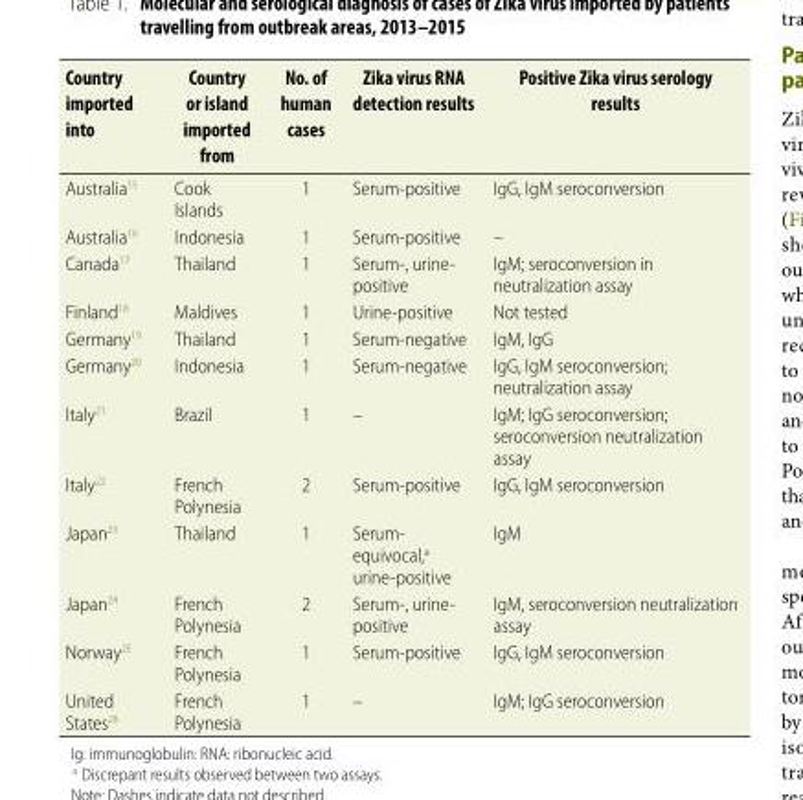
<table><thead><tr><td>Country imported into</td><td>Country or island imported from</td><td>No. of human cases</td><td>Zika virus RNA detection results</td><td>Positive Zika virus serology results</td></tr></thead><tbody><tr><td>Australia<sup>15</sup></td><td>Cook Islands</td><td>1</td><td>Serum-positive</td><td>IgG, IgM seroconversion</td></tr><tr><td>Australia<sup>16</sup></td><td>Indonesia</td><td>1</td><td>Serum-positive</td><td>–</td></tr><tr><td>Canada<sup>17</sup></td><td>Thailand</td><td>1</td><td>Serum-, urine- positive</td><td>IgM; seroconversion in neutralization assay</td></tr><tr><td>Finland<sup>18</sup></td><td>Maldives</td><td>1</td><td>Urine-positive</td><td>Not tested</td></tr><tr><td>Germany<sup>19</sup></td><td>Thailand</td><td>1</td><td>Serum-negative</td><td>IgM, IgG</td></tr><tr><td>Germany<sup>20</sup></td><td>Indonesia</td><td>1</td><td>Serum-negative</td><td>IgG, IgM seroconversion; neutralization assay</td></tr><tr><td>Italy<sup>21</sup></td><td>Brazil</td><td>1</td><td>–</td><td>IgM; IgG seroconversion; seroconversion neutralization assay</td></tr><tr><td>Italy<sup>22</sup></td><td>French Polynesia</td><td>2</td><td>Serum-positive</td><td>IgG, IgM seroconversion</td></tr><tr><td>Japan<sup>23</sup></td><td>Thailand</td><td>1</td><td>Serum- equivocal,<sup>a</sup> urine-positive</td><td>IgM</td></tr><tr><td>Japan<sup>24</sup></td><td>French Polynesia</td><td>2</td><td>Serum-, urine- positive</td><td>IgM, seroconversion neutralization assay</td></tr><tr><td>Norway<sup>25</sup></td><td>French Polynesia</td><td>1</td><td>Serum-positive</td><td>IgG, IgM seroconversion</td></tr><tr><td>United States<sup>26</sup></td><td>French Polynesia</td><td>1</td><td>–</td><td>IgM; IgG seroconversion</td></tr></tbody></table>